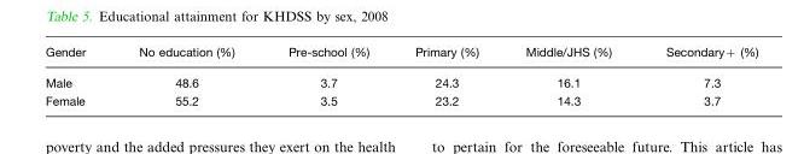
<table><thead><tr><td>Gender</td><td>No education (%)</td><td>Pre-school (%)</td><td>Primary (%)</td><td>Middle/JHS (%)</td><td>Secondary+ (%)</td></tr></thead><tbody><tr><td>Male</td><td>48.6</td><td>3.7</td><td>24.3</td><td>16.1</td><td>7.3</td></tr><tr><td>Female</td><td>55.2</td><td>3.5</td><td>23.2</td><td>14.3</td><td>3.7</td></tr></tbody></table>